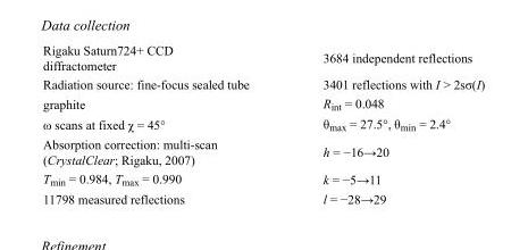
<table><tbody><tr><td>Rigaku Saturn724+ CCD diffractometer</td><td>3684 independent reflections</td></tr><tr><td>Radiation source: fine-focus sealed tube</td><td>3401 reflections with I &gt; 2sσ(I)</td></tr><tr><td>graphite</td><td>R<sub>int</sub> = 0.048</td></tr><tr><td>ω scans at fixed χ = 45°</td><td>θ<sub>max</sub> = 27.5°, θ<sub>min</sub> = 2.4°</td></tr><tr><td>Absorption correction: multi-scan (CrystalClear; Rigaku, 2007)</td><td>h = −16→20</td></tr><tr><td>T<sub>min</sub> = 0.984, T<sub>max</sub> = 0.990</td><td>k = −5→11</td></tr><tr><td>11798 measured reflections</td><td>l = −28→29</td></tr></tbody></table>